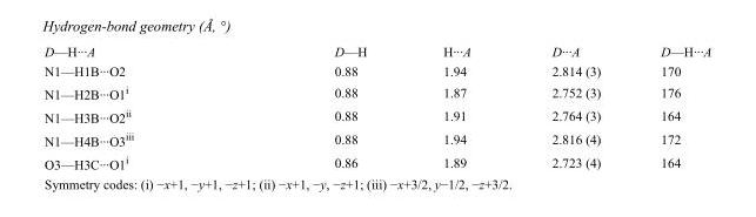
<table><tbody><tr><td>D—H···A</td><td>D—H</td><td>H···A</td><td>D···A</td><td>D—H···A</td></tr><tr><td>N1—H1B···O2</td><td>0.88</td><td>1.94</td><td>2.814 (3)</td><td>170</td></tr><tr><td>N1—H2B···O1<sup>i</sup></td><td>0.88</td><td>1.87</td><td>2.752 (3)</td><td>176</td></tr><tr><td>N1—H3B···O2<sup>ii</sup></td><td>0.88</td><td>1.91</td><td>2.764 (3)</td><td>164</td></tr><tr><td>N1—H4B···O3<sup>iii</sup></td><td>0.88</td><td>1.94</td><td>2.816 (4)</td><td>172</td></tr><tr><td>O3—H3C···O1<sup>i</sup></td><td>0.86</td><td>1.89</td><td>2.723 (4)</td><td>164</td></tr></tbody></table>